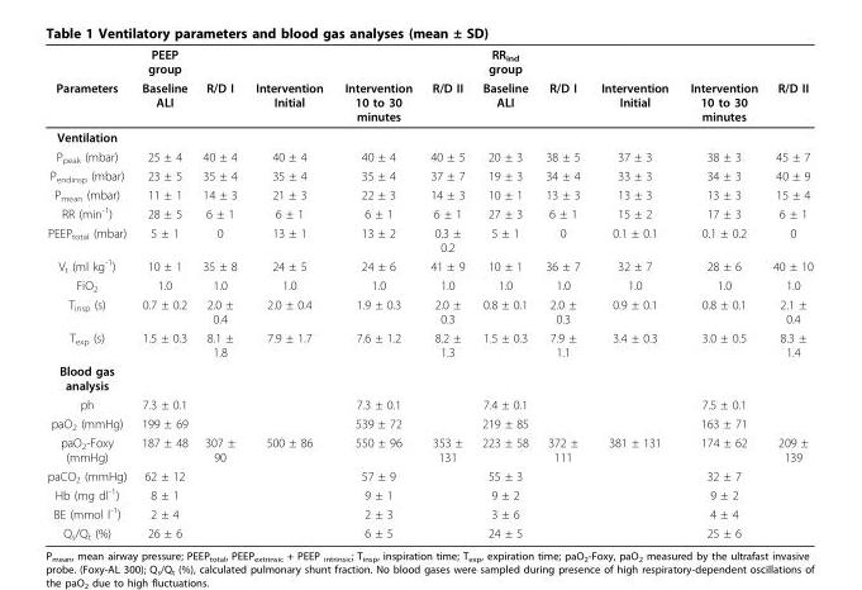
<table><thead><tr><td rowspan="2">Parameters</td><td rowspan="2">PEEP group Baseline ALI</td><td rowspan="2">R/D I</td><td rowspan="2">Intervention Initial</td><td rowspan="2">Intervention 10 to 30 minutes</td><td rowspan="2">R/D II</td><td rowspan="2">RR<sub>ind</sub> group Baseline ALI</td><td rowspan="2">R/D I</td><td rowspan="2">Intervention Initial</td><td rowspan="2">Intervention 10 to 30 minutes</td><td rowspan="2">R/D II</td></tr><tr></tr></thead><tbody><tr><td colspan="11">Ventilation</td></tr><tr><td>P<sub>peak</sub> (mbar)</td><td>25 ± 4</td><td>40 ± 4</td><td>40 ± 4</td><td>40 ± 4</td><td>40 ± 5</td><td>20 ± 3</td><td>38 ± 5</td><td>37 ± 3</td><td>38 ± 3</td><td>45 ± 7</td></tr><tr><td>P<sub>endinsp</sub> (mbar)</td><td>23 ± 5</td><td>35 ± 4</td><td>35 ± 4</td><td>35 ± 4</td><td>37 ± 7</td><td>19 ± 3</td><td>34 ± 4</td><td>33 ± 3</td><td>34 ± 3</td><td>40 ± 9</td></tr><tr><td>P<sub>mean</sub> (mbar)</td><td>11 ± 1</td><td>14 ± 3</td><td>21 ± 3</td><td>22 ± 3</td><td>14 ± 3</td><td>10 ± 1</td><td>13 ± 3</td><td>13 ± 3</td><td>13 ± 3</td><td>15 ± 4</td></tr><tr><td>RR (min<sup>-1</sup>)</td><td>28 ± 5</td><td>6 ± 1</td><td>6 ± 1</td><td>6 ± 1</td><td>6 ± 1</td><td>27 ± 3</td><td>6 ± 1</td><td>15 ± 2</td><td>17 ± 3</td><td>6 ± 1</td></tr><tr><td>PEEP<sub>total</sub> (mbar)</td><td>5 ± 1</td><td>0</td><td>13 ± 1</td><td>13 ± 2</td><td>0.3 ± 0.2</td><td>5 ± 1</td><td>0</td><td>0.1 ± 0.1</td><td>0.1 ± 0.2</td><td>0</td></tr><tr><td>V<sub>t</sub> (ml kg<sup>-1</sup>)</td><td>10 ± 1</td><td>35 ± 8</td><td>24 ± 5</td><td>24 ± 6</td><td>41 ± 9</td><td>10 ± 1</td><td>36 ± 7</td><td>32 ± 7</td><td>28 ± 6</td><td>40 ± 10</td></tr><tr><td>FiO<sub>2</sub></td><td>1.0</td><td>1.0</td><td>1.0</td><td>1.0</td><td>1.0</td><td>1.0</td><td>1.0</td><td>1.0</td><td>1.0</td><td>1.0</td></tr><tr><td>T<sub>insp</sub> (s)</td><td>0.7 ± 0.2</td><td>2.0 ± 0.4</td><td>2.0 ± 0.4</td><td>1.9 ± 0.3</td><td>2.0 ± 0.3</td><td>0.8 ± 0.1</td><td>2.0 ± 0.3</td><td>0.9 ± 0.1</td><td>0.8 ± 0.1</td><td>2.1 ± 0.4</td></tr><tr><td>T<sub>exp</sub> (s)</td><td>1.5 ± 0.3</td><td>8.1 ± 1.8</td><td>7.9 ± 1.7</td><td>7.6 ± 1.2</td><td>8.2 ± 1.3</td><td>1.5 ± 0.3</td><td>7.9 ± 1.1</td><td>3.4 ± 0.3</td><td>3.0 ± 0.5</td><td>8.3 ± 1.4</td></tr><tr><td colspan="11">Blood gas analysis</td></tr><tr><td>ph</td><td>7.3 ± 0.1</td><td></td><td></td><td>7.3 ± 0.1</td><td></td><td>7.4 ± 0.1</td><td></td><td></td><td>7.5 ± 0.1</td><td></td></tr><tr><td>paO<sub>2</sub> (mmHg)</td><td>199 ± 69</td><td></td><td></td><td>539 ± 72</td><td></td><td>219 ± 85</td><td></td><td></td><td>163 ± 71</td><td></td></tr><tr><td>paO<sub>2</sub>-Foxy (mmHg)</td><td>187 ± 48</td><td>307 ± 90</td><td>500 ± 86</td><td>550 ± 96</td><td>353 ± 131</td><td>223 ± 58</td><td>372 ± 111</td><td>381 ± 131</td><td>174 ± 62</td><td>209 ± 139</td></tr><tr><td>paCO<sub>2</sub> (mmHg)</td><td>62 ± 12</td><td></td><td></td><td>57 ± 9</td><td></td><td>55 ± 3</td><td></td><td></td><td>32 ± 7</td><td></td></tr><tr><td>Hb (mg dl<sup>-1</sup>)</td><td>8 ± 1</td><td></td><td></td><td>9 ± 1</td><td></td><td>9 ± 2</td><td></td><td></td><td>9 ± 2</td><td></td></tr><tr><td>BE (mmol l<sup>-1</sup>)</td><td>2 ± 4</td><td></td><td></td><td>2 ± 3</td><td></td><td>3 ± 6</td><td></td><td></td><td>4 ± 4</td><td></td></tr><tr><td>Q<sub>s</sub>/Q<sub>t</sub> (%)</td><td>26 ± 6</td><td></td><td></td><td>6 ± 5</td><td></td><td>24 ± 5</td><td></td><td></td><td>25 ± 6</td><td></td></tr></tbody></table>